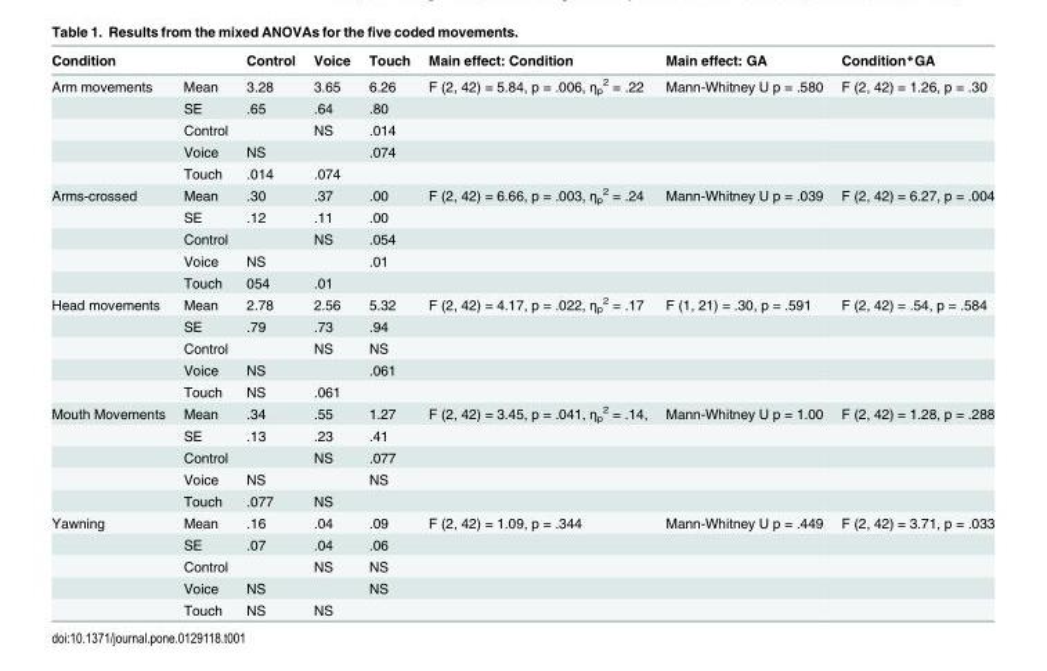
<table><thead><tr><td>Condition</td><td></td><td>Control</td><td>Voice</td><td>Touch</td><td>Main effect: Condition</td><td>Main effect: GA</td><td>Condition*GA</td></tr></thead><tbody><tr><td rowspan="5">Arm movements</td><td>Mean</td><td>3.28</td><td>3.65</td><td>6.26</td><td>F (2, 42) = 5.84, p = .006, η<sub>p</sub> <sup>2</sup> = .22</td><td>Mann-Whitney U p = .580</td><td>F (2, 42) = 1.26, p = .30</td></tr><tr><td>SE</td><td>.65</td><td>.64</td><td>.80</td><td></td><td></td><td></td></tr><tr><td>Control</td><td></td><td>NS</td><td>.014</td><td></td><td></td><td></td></tr><tr><td>Voice</td><td>NS</td><td></td><td>.074</td><td></td><td></td><td></td></tr><tr><td>Touch</td><td>.014</td><td>.074</td><td></td><td></td><td></td><td></td></tr><tr><td rowspan="5">Arms-crossed</td><td>Mean</td><td>.30</td><td>.37</td><td>.00</td><td>F (2, 42) = 6.66, p = .003, η<sub>p</sub> <sup>2</sup> = .24</td><td>Mann-Whitney U p = .039</td><td>F (2, 42) = 6.27, p = .004</td></tr><tr><td>SE</td><td>.12</td><td>.11</td><td>.00</td><td></td><td></td><td></td></tr><tr><td>Control</td><td></td><td>NS</td><td>.054</td><td></td><td></td><td></td></tr><tr><td>Voice</td><td>NS</td><td></td><td>.01</td><td></td><td></td><td></td></tr><tr><td>Touch</td><td>054</td><td>.01</td><td></td><td></td><td></td><td></td></tr><tr><td rowspan="5">Head movements</td><td>Mean</td><td>2.78</td><td>2.56</td><td>5.32</td><td>F (2, 42) = 4.17, p = .022, η<sub>p</sub> <sup>2</sup> = .17</td><td>F (1, 21) = .30, p = .591</td><td>F (2, 42) = .54, p = .584</td></tr><tr><td>SE</td><td>.79</td><td>.73</td><td>.94</td><td></td><td></td><td></td></tr><tr><td>Control</td><td></td><td>NS</td><td>NS</td><td></td><td></td><td></td></tr><tr><td>Voice</td><td>NS</td><td></td><td>.061</td><td></td><td></td><td></td></tr><tr><td>Touch</td><td>NS</td><td>.061</td><td></td><td></td><td></td><td></td></tr><tr><td rowspan="5">Mouth Movements</td><td>Mean</td><td>.34</td><td>.55</td><td>1.27</td><td>F (2, 42) = 3.45, p = .041, η<sub>p</sub> <sup>2</sup> = .14,</td><td>Mann-Whitney U p = 1.00</td><td>F (2, 42) = 1.28, p = .288</td></tr><tr><td>SE</td><td>.13</td><td>.23</td><td>.41</td><td></td><td></td><td></td></tr><tr><td>Control</td><td></td><td>NS</td><td>.077</td><td></td><td></td><td></td></tr><tr><td>Voice</td><td>NS</td><td></td><td>NS</td><td></td><td></td><td></td></tr><tr><td>Touch</td><td>.077</td><td>NS</td><td></td><td></td><td></td><td></td></tr><tr><td rowspan="5">Yawning</td><td>Mean</td><td>.16</td><td>.04</td><td>.09</td><td>F (2, 42) = 1.09, p = .344</td><td>Mann-Whitney U p = .449</td><td>F (2, 42) = 3.71, p = .033</td></tr><tr><td>SE</td><td>.07</td><td>.04</td><td>.06</td><td></td><td></td><td></td></tr><tr><td>Control</td><td></td><td>NS</td><td>NS</td><td></td><td></td><td></td></tr><tr><td>Voice</td><td>NS</td><td></td><td>NS</td><td></td><td></td><td></td></tr><tr><td>Touch</td><td>NS</td><td>NS</td><td></td><td></td><td></td><td></td></tr></tbody></table>